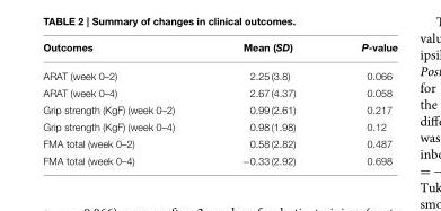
<table><thead><tr><td>Outcomes</td><td>Mean (SD)</td><td>P-value</td></tr></thead><tbody><tr><td>ARAT (week 0–2)</td><td>2.25 (3.8)</td><td>0.066</td></tr><tr><td>ARAT (week 0–4)</td><td>2.67 (4.37)</td><td>0.058</td></tr><tr><td>Grip strength (KgF) (week 0–2)</td><td>0.99 (2.61)</td><td>0.217</td></tr><tr><td>Grip strength (KgF) (week 0–4)</td><td>0.98 (1.98)</td><td>0.12</td></tr><tr><td>FMA total (week 0–2)</td><td>0.58 (2.82)</td><td>0.487</td></tr><tr><td>FMA total (week 0–4)</td><td>−0.33 (2.92)</td><td>0.698</td></tr></tbody></table>